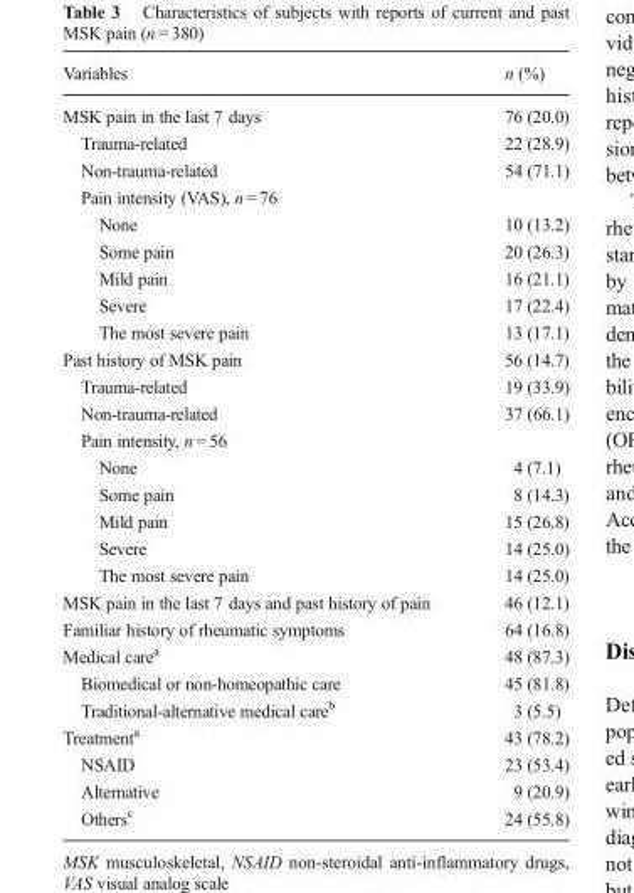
<table><thead><tr><td>Variables</td><td>n (%)</td></tr></thead><tbody><tr><td>MSK pain in the last 7 days</td><td>76 (20.0)</td></tr><tr><td>Trauma-related</td><td>22 (28.9)</td></tr><tr><td>Non-trauma-related</td><td>54 (71.1)</td></tr><tr><td colspan="2">Pain intensity (VAS), n = 76</td></tr><tr><td>None</td><td>10 (13.2)</td></tr><tr><td>Some pain</td><td>20 (26.3)</td></tr><tr><td>Mild pain</td><td>16 (21.1)</td></tr><tr><td>Severe</td><td>17 (22.4)</td></tr><tr><td>The most severe pain</td><td>13 (17.1)</td></tr><tr><td>Past history of MSK pain</td><td>56 (14.7)</td></tr><tr><td>Trauma-related</td><td>19 (33.9)</td></tr><tr><td>Non-trauma-related</td><td>37 (66.1)</td></tr><tr><td colspan="2">Pain intensity, n = 56</td></tr><tr><td>None</td><td>4 (7.1)</td></tr><tr><td>Some pain</td><td>8 (14.3)</td></tr><tr><td>Mild pain</td><td>15 (26.8)</td></tr><tr><td>Severe</td><td>14 (25.0)</td></tr><tr><td>The most severe pain</td><td>14 (25.0)</td></tr><tr><td>MSK pain in the last 7 days and past history of pain</td><td>46 (12.1)</td></tr><tr><td>Familiar history of rheumatic symptoms</td><td>64 (16.8)</td></tr><tr><td>Medical care<sup>a</sup></td><td>48 (87.3)</td></tr><tr><td>Biomedical or non-homeopathic care</td><td>45 (81.8)</td></tr><tr><td>Traditional-alternative medical care<sup>b</sup></td><td>3 (5.5)</td></tr><tr><td>Treatment<sup>a</sup></td><td>43 (78.2)</td></tr><tr><td>NSAID</td><td>23 (53.4)</td></tr><tr><td>Alternative</td><td>9 (20.9)</td></tr><tr><td>Others<sup>c</sup></td><td>24 (55.8)</td></tr></tbody></table>